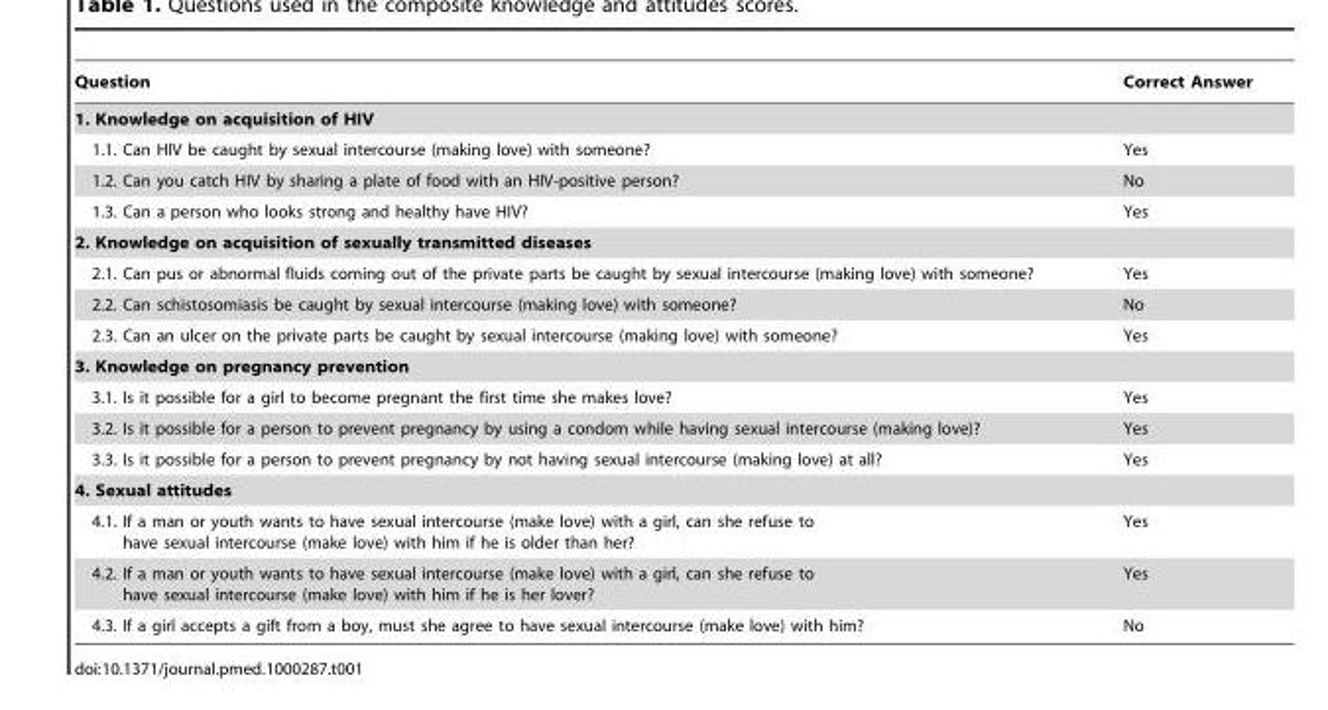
<table><thead><tr><td>Question</td><td>Correct Answer</td></tr></thead><tbody><tr><td colspan="2">1. Knowledge on acquisition of HIV</td></tr><tr><td>1.1. Can HIV be caught by sexual intercourse (making love) with someone?</td><td>Yes</td></tr><tr><td>1.2. Can you catch HIV by sharing a plate of food with an HIV-positive person?</td><td>No</td></tr><tr><td>1.3. Can a person who looks strong and healthy have HIV?</td><td>Yes</td></tr><tr><td colspan="2">2. Knowledge on acquisition of sexually transmitted diseases</td></tr><tr><td>2.1. Can pus or abnormal fluids coming out of the private parts be caught by sexual intercourse (making love) with someone?</td><td>Yes</td></tr><tr><td>2.2. Can schistosomiasis be caught by sexual intercourse (making love) with someone?</td><td>No</td></tr><tr><td>2.3. Can an ulcer on the private parts be caught by sexual intercourse (making love) with someone?</td><td>Yes</td></tr><tr><td colspan="2">3. Knowledge on pregnancy prevention</td></tr><tr><td>3.1. Is it possible for a girl to become pregnant the first time she makes love?</td><td>Yes</td></tr><tr><td>3.2. Is it possible for a person to prevent pregnancy by using a condom while having sexual intercourse (making love)?</td><td>Yes</td></tr><tr><td>3.3. Is it possible for a person to prevent pregnancy by not having sexual intercourse (making love) at all?</td><td>Yes</td></tr><tr><td colspan="2">4. Sexual attitudes</td></tr><tr><td>4.1. If a man or youth wants to have sexual intercourse (make love) with a girl, can she refuse to have sexual intercourse (make love) with him if he is older than her?</td><td>Yes</td></tr><tr><td>4.2. If a man or youth wants to have sexual intercourse (make love) with a girl, can she refuse to have sexual intercourse (make love) with him if he is her lover?</td><td>Yes</td></tr><tr><td>4.3. If a girl accepts a gift from a boy, must she agree to have sexual intercourse (make love) with him?</td><td>No</td></tr></tbody></table>